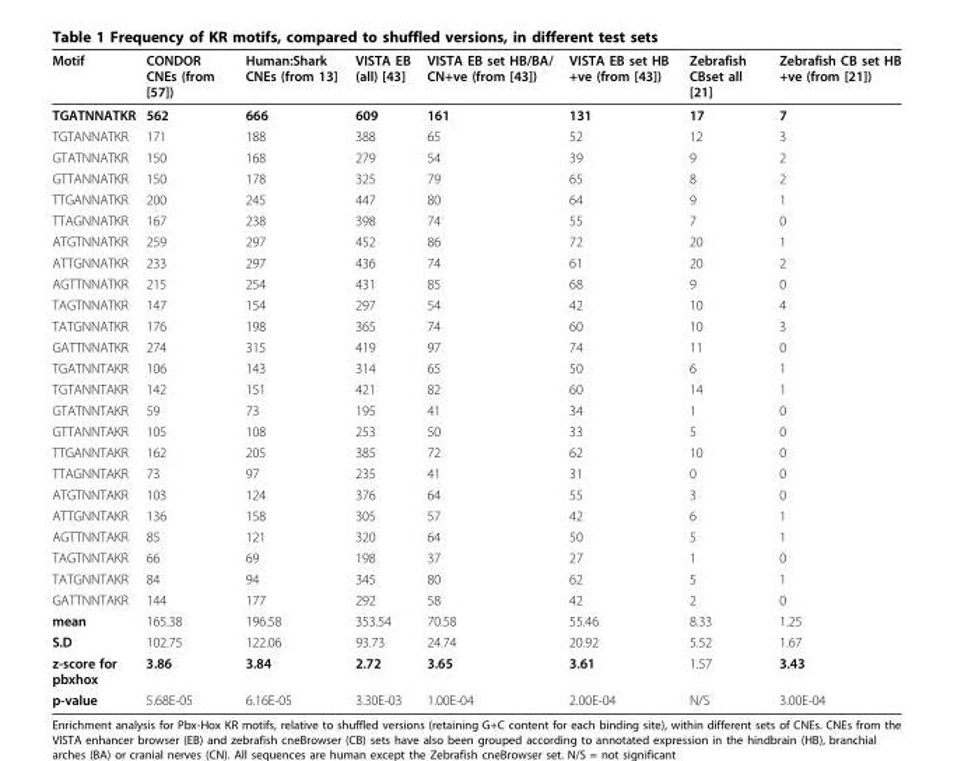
<table><thead><tr><td>Motif</td><td>CONDOR CNEs (from [57])</td><td>Human:Shark CNEs (from 13]</td><td>VISTA EB (all) [43]</td><td>VISTA EB set HB/BA/ CN+ve (from [43])</td><td>VISTA EB set HB +ve (from [43])</td><td>Zebrafish CBset all [21]</td><td>Zebrafish CB set HB +ve (from [21])</td></tr></thead><tbody><tr><td>TGATNNATKR</td><td>562</td><td>666</td><td>609</td><td>161</td><td>131</td><td>17</td><td>7</td></tr><tr><td>TGTANNATKR</td><td>171</td><td>188</td><td>388</td><td>65</td><td>52</td><td>12</td><td>3</td></tr><tr><td>GTATNNATKR</td><td>150</td><td>168</td><td>279</td><td>54</td><td>39</td><td>9</td><td>2</td></tr><tr><td>GTTANNATKR</td><td>150</td><td>178</td><td>325</td><td>79</td><td>65</td><td>8</td><td>2</td></tr><tr><td>TTGANNATKR</td><td>200</td><td>245</td><td>447</td><td>80</td><td>64</td><td>9</td><td>1</td></tr><tr><td>TTAGNNATKR</td><td>167</td><td>238</td><td>398</td><td>74</td><td>55</td><td>7</td><td>0</td></tr><tr><td>ATGTNNATKR</td><td>259</td><td>297</td><td>452</td><td>86</td><td>72</td><td>20</td><td>1</td></tr><tr><td>ATTGNNATKR</td><td>233</td><td>297</td><td>436</td><td>74</td><td>61</td><td>20</td><td>2</td></tr><tr><td>AGTTNNATKR</td><td>215</td><td>254</td><td>431</td><td>85</td><td>68</td><td>9</td><td>0</td></tr><tr><td>TAGTNNATKR</td><td>147</td><td>154</td><td>297</td><td>54</td><td>42</td><td>10</td><td>4</td></tr><tr><td>TATGNNATKR</td><td>176</td><td>198</td><td>365</td><td>74</td><td>60</td><td>10</td><td>3</td></tr><tr><td>GATTNNATKR</td><td>274</td><td>315</td><td>419</td><td>97</td><td>74</td><td>11</td><td>0</td></tr><tr><td>TGATNNTAKR</td><td>106</td><td>143</td><td>314</td><td>65</td><td>50</td><td>6</td><td>1</td></tr><tr><td>TGTANNTAKR</td><td>142</td><td>151</td><td>421</td><td>82</td><td>60</td><td>14</td><td>1</td></tr><tr><td>GTATNNTAKR</td><td>59</td><td>73</td><td>195</td><td>41</td><td>34</td><td>1</td><td>0</td></tr><tr><td>GTTANNTAKR</td><td>105</td><td>108</td><td>253</td><td>50</td><td>33</td><td>5</td><td>0</td></tr><tr><td>TTGANNTAKR</td><td>162</td><td>205</td><td>385</td><td>72</td><td>62</td><td>10</td><td>0</td></tr><tr><td>TTAGNNTAKR</td><td>73</td><td>97</td><td>235</td><td>41</td><td>31</td><td>0</td><td>0</td></tr><tr><td>ATGTNNTAKR</td><td>103</td><td>124</td><td>376</td><td>64</td><td>55</td><td>3</td><td>0</td></tr><tr><td>ATTGNNTAKR</td><td>136</td><td>158</td><td>305</td><td>57</td><td>42</td><td>6</td><td>1</td></tr><tr><td>AGTTNNTAKR</td><td>85</td><td>121</td><td>320</td><td>64</td><td>50</td><td>5</td><td>1</td></tr><tr><td>TAGTNNTAKR</td><td>66</td><td>69</td><td>198</td><td>37</td><td>27</td><td>1</td><td>0</td></tr><tr><td>TATGNNTAKR</td><td>84</td><td>94</td><td>345</td><td>80</td><td>62</td><td>5</td><td>1</td></tr><tr><td>GATTNNTAKR</td><td>144</td><td>177</td><td>292</td><td>58</td><td>42</td><td>2</td><td>0</td></tr><tr><td>mean</td><td>165.38</td><td>196.58</td><td>353.54</td><td>70.58</td><td>55.46</td><td>8.33</td><td>1.25</td></tr><tr><td>S.D</td><td>102.75</td><td>122.06</td><td>93.73</td><td>24.74</td><td>20.92</td><td>5.52</td><td>1.67</td></tr><tr><td>z-score for pbxhox</td><td>3.86</td><td>3.84</td><td>2.72</td><td>3.65</td><td>3.61</td><td>1.57</td><td>3.43</td></tr><tr><td>p-value</td><td>5.68E-05</td><td>6.16E-05</td><td>3.30E-03</td><td>1.00E-04</td><td>2.00E-04</td><td>N/S</td><td>3.00E-04</td></tr></tbody></table>